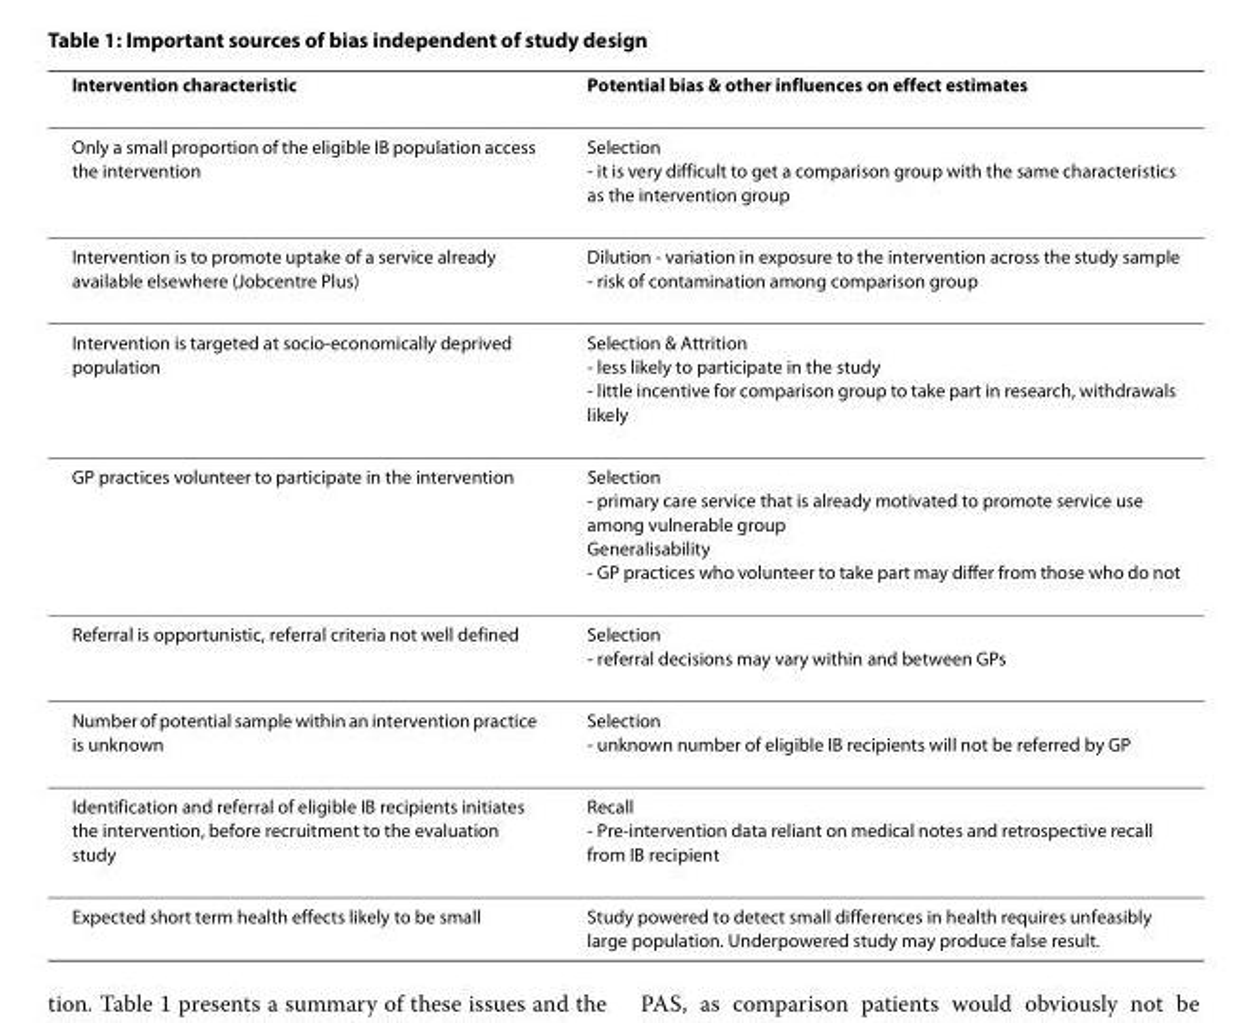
<table><thead><tr><td>Intervention characteristic</td><td>Potential bias &amp; other influences on effect estimates</td></tr></thead><tbody><tr><td>Only a small proportion of the eligible IB population access the intervention</td><td>Selection - it is very difficult to get a comparison group with the same characteristics as the intervention group</td></tr><tr><td>Intervention is to promote uptake of a service already available elsewhere (Jobcentre Plus)</td><td>Dilution - variation in exposure to the intervention across the study sample - risk of contamination among comparison group</td></tr><tr><td>Intervention is targeted at socio-economically deprived population</td><td>Selection &amp; Attrition - less likely to participate in the study - little incentive for comparison group to take part in research, withdrawals likely</td></tr><tr><td>GP practices volunteer to participate in the intervention</td><td>Selection - primary care service that is already motivated to promote service use among vulnerable group Generalisability - GP practices who volunteer to take part may differ from those who do not</td></tr><tr><td>Referral is opportunistic, referral criteria not well defined</td><td>Selection - referral decisions may vary within and between GPs</td></tr><tr><td>Number of potential sample within an intervention practice is unknown</td><td>Selection - unknown number of eligible IB recipients will not be referred by GP</td></tr><tr><td>Identification and referral of eligible IB recipients initiates the intervention, before recruitment to the evaluation study</td><td>Recall - Pre-intervention data reliant on medical notes and retrospective recall from IB recipient</td></tr><tr><td>Expected short term health effects likely to be small</td><td>Study powered to detect small differences in health requires unfeasibly large population. Underpowered study may produce false result.</td></tr></tbody></table>